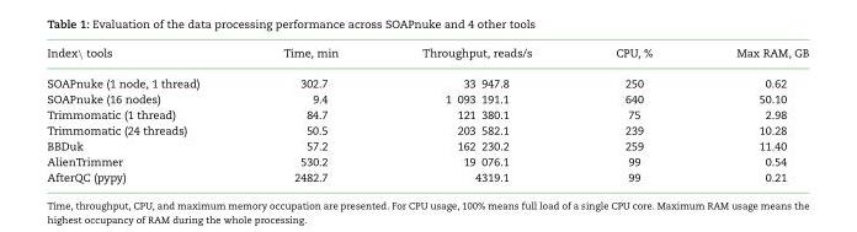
<table><thead><tr><td>Index\ tools</td><td>Time, min</td><td>Throughput, reads/s</td><td>CPU, %</td><td>Max RAM, GB</td></tr></thead><tbody><tr><td>SOAPnuke (1 node, 1 thread)</td><td>302.7</td><td>33 947.8</td><td>250</td><td>0.62</td></tr><tr><td>SOAPnuke (16 nodes)</td><td>9.4</td><td>1 093 191.1</td><td>640</td><td>50.10</td></tr><tr><td>Trimmomatic (1 thread)</td><td>84.7</td><td>121 380.1</td><td>75</td><td>2.98</td></tr><tr><td>Trimmomatic (24 threads)</td><td>50.5</td><td>203 582.1</td><td>239</td><td>10.28</td></tr><tr><td>BBDuk</td><td>57.2</td><td>162 230.2</td><td>259</td><td>11.40</td></tr><tr><td>AlienTrimmer</td><td>530.2</td><td>19 076.1</td><td>99</td><td>0.54</td></tr><tr><td>AfterQC (pypy)</td><td>2482.7</td><td>4319.1</td><td>99</td><td>0.21</td></tr></tbody></table>